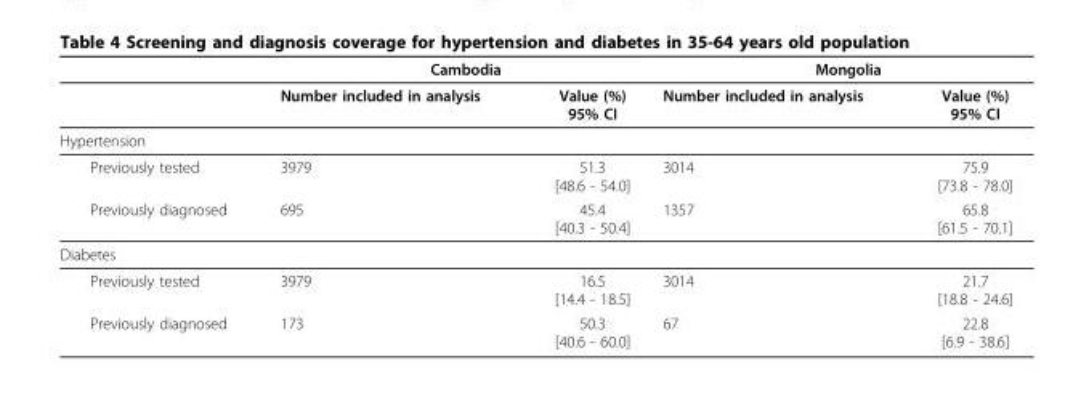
<table><thead><tr><td rowspan="2"></td><td colspan="2">Cambodia</td><td colspan="2">Mongolia</td></tr><tr><td>Number included in analysis</td><td>Value (%) 95% CI</td><td>Number included in analysis</td><td>Value (%) 95% CI</td></tr></thead><tbody><tr><td colspan="5">Hypertension</td></tr><tr><td>Previously tested</td><td>3979</td><td>51.3 [48.6 - 54.0]</td><td>3014</td><td>75.9 [73.8 - 78.0]</td></tr><tr><td>Previously diagnosed</td><td>695</td><td>45.4 [40.3 - 50.4]</td><td>1357</td><td>65.8 [61.5 - 70.1]</td></tr><tr><td colspan="5">Diabetes</td></tr><tr><td>Previously tested</td><td>3979</td><td>16.5 [14.4 - 18.5]</td><td>3014</td><td>21.7 [18.8 - 24.6]</td></tr><tr><td>Previously diagnosed</td><td>173</td><td>50.3 [40.6 - 60.0]</td><td>67</td><td>22.8 [6.9 - 38.6]</td></tr></tbody></table>